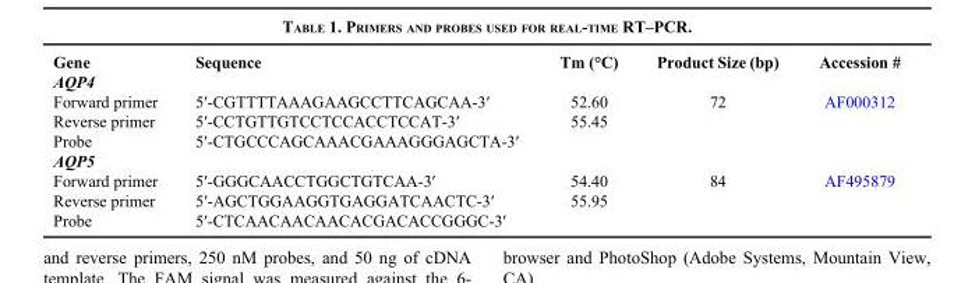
<table><thead><tr><td>Gene</td><td>Sequence</td><td>Tm (°C)</td><td>Product Size (bp)</td><td>Accession #</td></tr></thead><tbody><tr><td colspan="5">AQP4</td></tr><tr><td>Forward primer</td><td>5′-CGTTTTAAAGAAGCCTTCAGCAA-3′</td><td>52.60</td><td>72</td><td>AF000312</td></tr><tr><td>Reverse primer</td><td>5′-CCTGTTGTCCTCCACCTCCAT-3′</td><td>55.45</td><td></td><td></td></tr><tr><td>Probe</td><td>5′-CTGCCCAGCAAACGAAAGGGAGCTA-3′</td><td></td><td></td><td></td></tr><tr><td colspan="5">AQP5</td></tr><tr><td>Forward primer</td><td>5′-GGGCAACCTGGCTGTCAA-3′</td><td>54.40</td><td>84</td><td>AF495879</td></tr><tr><td>Reverse primer</td><td>5′-AGCTGGAAGGTGAGGATCAACTC-3′</td><td>55.95</td><td></td><td></td></tr><tr><td>Probe</td><td>5′-CTCAACAACAACACGACACCGGGC-3′</td><td></td><td></td><td></td></tr></tbody></table>